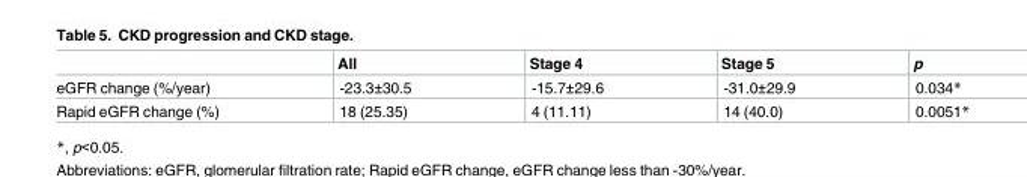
<table><thead><tr><td></td><td>All</td><td>Stage 4</td><td>Stage 5</td><td>p</td></tr></thead><tbody><tr><td>eGFR change (%/year)</td><td>-23.3±30.5</td><td>-15.7±29.6</td><td>-31.0±29.9</td><td>0.034*</td></tr><tr><td>Rapid eGFR change (%)</td><td>18 (25.35)</td><td>4 (11.11)</td><td>14 (40.0)</td><td>0.0051*</td></tr></tbody></table>